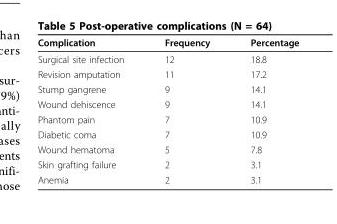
<table><thead><tr><td>Complication</td><td>Frequency</td><td>Percentage</td></tr></thead><tbody><tr><td>Surgical site infection</td><td>12</td><td>18.8</td></tr><tr><td>Revision amputation</td><td>11</td><td>17.2</td></tr><tr><td>Stump gangrene</td><td>9</td><td>14.1</td></tr><tr><td>Wound dehiscence</td><td>9</td><td>14.1</td></tr><tr><td>Phantom pain</td><td>7</td><td>10.9</td></tr><tr><td>Diabetic coma</td><td>7</td><td>10.9</td></tr><tr><td>Wound hematoma</td><td>5</td><td>7.8</td></tr><tr><td>Skin grafting failure</td><td>2</td><td>3.1</td></tr><tr><td>Anemia</td><td>2</td><td>3.1</td></tr></tbody></table>